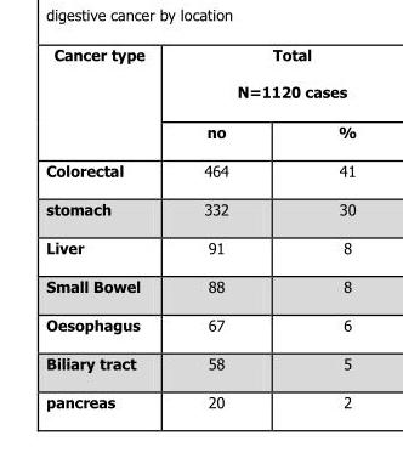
<table><thead><tr><td rowspan="2">Cancer type</td><td colspan="2">Total N=1120 cases</td></tr><tr><td>no</td><td>%</td></tr></thead><tbody><tr><td>Colorectal</td><td>464</td><td>41</td></tr><tr><td>stomach</td><td>332</td><td>30</td></tr><tr><td>Liver</td><td>91</td><td>8</td></tr><tr><td>Small Bowel</td><td>88</td><td>8</td></tr><tr><td>Oesophagus</td><td>67</td><td>6</td></tr><tr><td>Biliary tract</td><td>58</td><td>5</td></tr><tr><td>pancreas</td><td>20</td><td>2</td></tr></tbody></table>